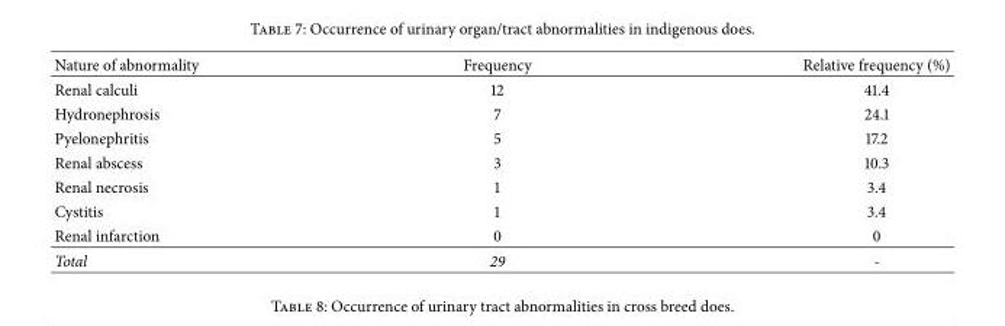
<table><thead><tr><td>Nature of abnormality</td><td>Frequency</td><td>Relative frequency (%)</td></tr></thead><tbody><tr><td>Renal calculi</td><td>12</td><td>41.4</td></tr><tr><td>Hydronephrosis</td><td>7</td><td>24.1</td></tr><tr><td>Pyelonephritis</td><td>5</td><td>17.2</td></tr><tr><td>Renal abscess</td><td>3</td><td>10.3</td></tr><tr><td>Renal necrosis</td><td>1</td><td>3.4</td></tr><tr><td>Cystitis</td><td>1</td><td>3.4</td></tr><tr><td>Renal infarction</td><td>0</td><td>0</td></tr><tr><td>Total</td><td>29</td><td>-</td></tr></tbody></table>